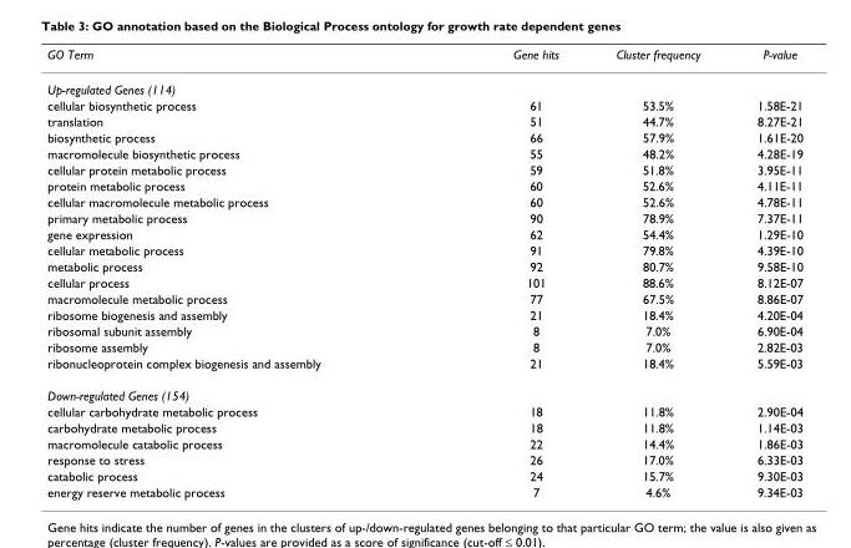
<table><thead><tr><td>GO Term</td><td>Gene hits</td><td>Cluster frequency</td><td>P-value</td></tr></thead><tbody><tr><td colspan="4">Up-regulated Genes (114)</td></tr><tr><td>cellular biosynthetic process</td><td>61</td><td>53.5%</td><td>1.58E-21</td></tr><tr><td>translation</td><td>51</td><td>44.7%</td><td>8.27E-21</td></tr><tr><td>biosynthetic process</td><td>66</td><td>57.9%</td><td>1.61E-20</td></tr><tr><td>macromolecule biosynthetic process</td><td>55</td><td>48.2%</td><td>4.28E-19</td></tr><tr><td>cellular protein metabolic process</td><td>59</td><td>51.8%</td><td>3.95E-11</td></tr><tr><td>protein metabolic process</td><td>60</td><td>52.6%</td><td>4.11E-11</td></tr><tr><td>cellular macromolecule metabolic process</td><td>60</td><td>52.6%</td><td>4.78E-11</td></tr><tr><td>primary metabolic process</td><td>90</td><td>78.9%</td><td>7.37E-11</td></tr><tr><td>gene expression</td><td>62</td><td>54.4%</td><td>1.29E-10</td></tr><tr><td>cellular metabolic process</td><td>91</td><td>79.8%</td><td>4.39E-10</td></tr><tr><td>metabolic process</td><td>92</td><td>80.7%</td><td>9.58E-10</td></tr><tr><td>cellular process</td><td>101</td><td>88.6%</td><td>8.12E-07</td></tr><tr><td>macromolecule metabolic process</td><td>77</td><td>67.5%</td><td>8.86E-07</td></tr><tr><td>ribosome biogenesis and assembly</td><td>21</td><td>18.4%</td><td>4.20E-04</td></tr><tr><td>ribosomal subunit assembly</td><td>8</td><td>7.0%</td><td>6.90E-04</td></tr><tr><td>ribosome assembly</td><td>8</td><td>7.0%</td><td>2.82E-03</td></tr><tr><td>ribonucleoprotein complex biogenesis and assembly</td><td>21</td><td>18.4%</td><td>5.59E-03</td></tr><tr><td colspan="4">Down-regulated Genes (154)</td></tr><tr><td>cellular carbohydrate metabolic process</td><td>18</td><td>11.8%</td><td>2.90E-04</td></tr><tr><td>carbohydrate metabolic process</td><td>18</td><td>11.8%</td><td>1.14E-03</td></tr><tr><td>macromolecule catabolic process</td><td>22</td><td>14.4%</td><td>1.86E-03</td></tr><tr><td>response to stress</td><td>26</td><td>17.0%</td><td>6.33E-03</td></tr><tr><td>catabolic process</td><td>24</td><td>15.7%</td><td>9.30E-03</td></tr><tr><td>energy reserve metabolic process</td><td>7</td><td>4.6%</td><td>9.34E-03</td></tr></tbody></table>